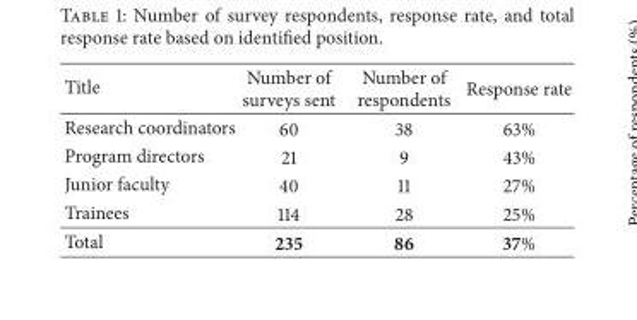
<table><thead><tr><td>Title</td><td>Number of surveys sent</td><td>Number of respondents</td><td>Response rate</td></tr></thead><tbody><tr><td>Research coordinators</td><td>60</td><td>38</td><td>63%</td></tr><tr><td>Program directors</td><td>21</td><td>9</td><td>43%</td></tr><tr><td>Junior faculty</td><td>40</td><td>11</td><td>27%</td></tr><tr><td>Trainees</td><td>114</td><td>28</td><td>25%</td></tr><tr><td>Total</td><td>235</td><td>86</td><td>37%</td></tr></tbody></table>